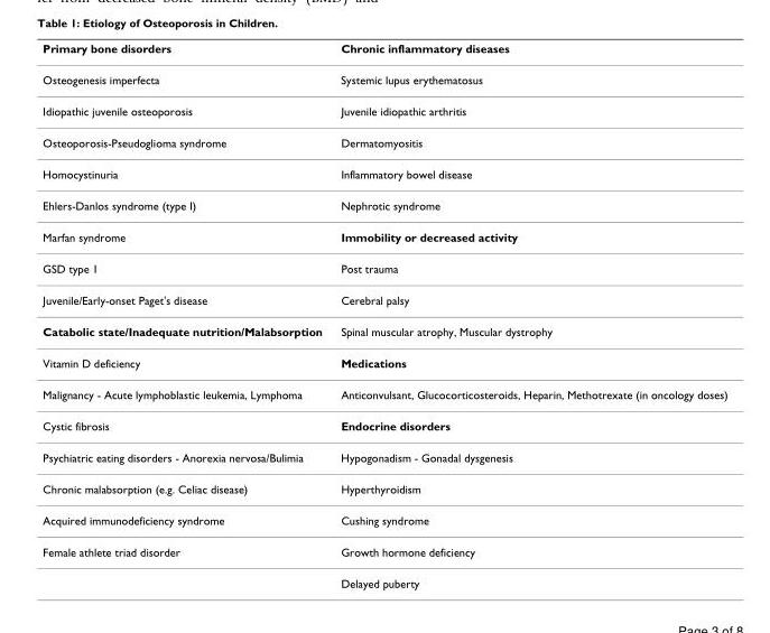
<table><thead><tr><td>Primary bone disorders</td><td>Chronic inflammatory diseases</td></tr></thead><tbody><tr><td>Osteogenesis imperfecta</td><td>Systemic lupus erythematosus</td></tr><tr><td>Idiopathic juvenile osteoporosis</td><td>Juvenile idiopathic arthritis</td></tr><tr><td>Osteoporosis-Pseudoglioma syndrome</td><td>Dermatomyositis</td></tr><tr><td>Homocystinuria</td><td>Inflammatory bowel disease</td></tr><tr><td>Ehlers-Danlos syndrome (type I)</td><td>Nephrotic syndrome</td></tr><tr><td>Marfan syndrome</td><td>Immobility or decreased activity</td></tr><tr><td>GSD type 1</td><td>Post trauma</td></tr><tr><td>Juvenile/Early-onset Paget&#x27;s disease</td><td>Cerebral palsy</td></tr><tr><td>Catabolic state/Inadequate nutrition/Malabsorption</td><td>Spinal muscular atrophy, Muscular dystrophy</td></tr><tr><td>Vitamin D deficiency</td><td>Medications</td></tr><tr><td>Malignancy - Acute lymphoblastic leukemia, Lymphoma</td><td>Anticonvulsant, Glucocorticosteroids, Heparin, Methotrexate (in oncology doses)</td></tr><tr><td>Cystic fibrosis</td><td>Endocrine disorders</td></tr><tr><td>Psychiatric eating disorders - Anorexia nervosa/Bulimia</td><td>Hypogonadism - Gonadal dysgenesis</td></tr><tr><td>Chronic malabsorption (e.g. Celiac disease)</td><td>Hyperthyroidism</td></tr><tr><td>Acquired immunodeficiency syndrome</td><td>Cushing syndrome</td></tr><tr><td rowspan="2">Female athlete triad disorder</td><td>Growth hormone deficiency</td></tr><tr><td>Delayed puberty</td></tr></tbody></table>